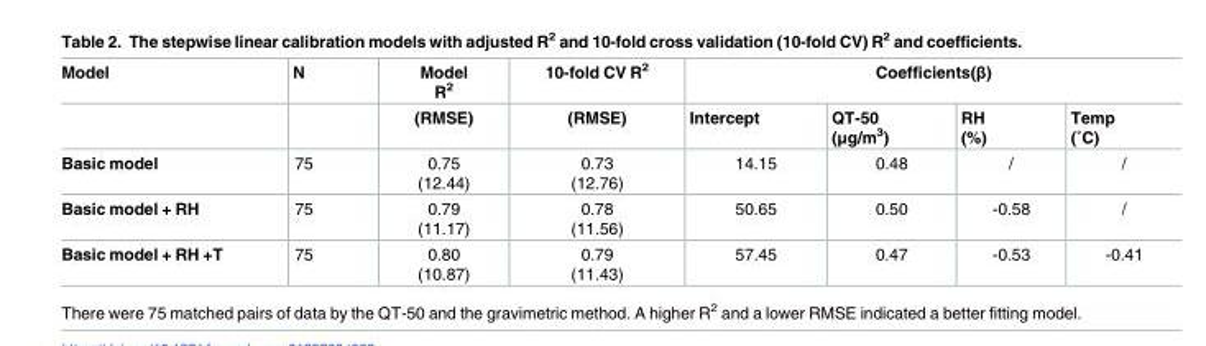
<table><thead><tr><td rowspan="2">Model</td><td rowspan="2">N</td><td rowspan="2">Model R<sup>2</sup> (RMSE)</td><td rowspan="2">10-fold CV R<sup>2</sup> (RMSE)</td><td colspan="4">Coefficients(β)</td></tr><tr><td>Intercept</td><td>QT-50 (μg/m<sup>3</sup>)</td><td>RH (%)</td><td>Temp (˚C)</td></tr></thead><tbody><tr><td>Basic model</td><td>75</td><td>0.75 (12.44)</td><td>0.73 (12.76)</td><td>14.15</td><td>0.48</td><td>/</td><td>/</td></tr><tr><td>Basic model + RH</td><td>75</td><td>0.79 (11.17)</td><td>0.78 (11.56)</td><td>50.65</td><td>0.50</td><td>-0.58</td><td>/</td></tr><tr><td>Basic model + RH +T</td><td>75</td><td>0.80 (10.87)</td><td>0.79 (11.43)</td><td>57.45</td><td>0.47</td><td>-0.53</td><td>-0.41</td></tr></tbody></table>